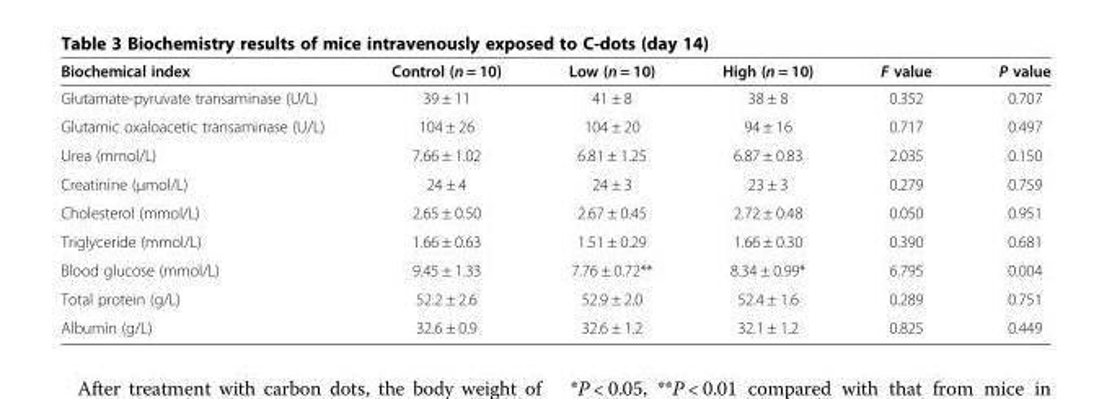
<table><thead><tr><td>Biochemical index</td><td>Control (n = 10)</td><td>Low (n = 10)</td><td>High (n = 10)</td><td>F value</td><td>P value</td></tr></thead><tbody><tr><td>Glutamate-pyruvate transaminase (U/L)</td><td>39 ± 11</td><td>41 ± 8</td><td>38 ± 8</td><td>0.352</td><td>0.707</td></tr><tr><td>Glutamic oxaloacetic transaminase (U/L)</td><td>104 ± 26</td><td>104 ± 20</td><td>94 ± 16</td><td>0.717</td><td>0.497</td></tr><tr><td>Urea (mmol/L)</td><td>7.66 ± 1.02</td><td>6.81 ± 1.25</td><td>6.87 ± 0.83</td><td>2.035</td><td>0.150</td></tr><tr><td>Creatinine (μmol/L)</td><td>24 ± 4</td><td>24 ± 3</td><td>23 ± 3</td><td>0.279</td><td>0.759</td></tr><tr><td>Cholesterol (mmol/L)</td><td>2.65 ± 0.50</td><td>2.67 ± 0.45</td><td>2.72 ± 0.48</td><td>0.050</td><td>0.951</td></tr><tr><td>Triglyceride (mmol/L)</td><td>1.66 ± 0.63</td><td>1.51 ± 0.29</td><td>1.66 ± 0.30</td><td>0.390</td><td>0.681</td></tr><tr><td>Blood glucose (mmol/L)</td><td>9.45 ± 1.33</td><td>7.76 ± 0.72**</td><td>8.34 ± 0.99*</td><td>6.795</td><td>0.004</td></tr><tr><td>Total protein (g/L)</td><td>52.2 ± 2.6</td><td>52.9 ± 2.0</td><td>52.4 ± 1.6</td><td>0.289</td><td>0.751</td></tr><tr><td>Albumin (g/L)</td><td>32.6 ± 0.9</td><td>32.6 ± 1.2</td><td>32.1 ± 1.2</td><td>0.825</td><td>0.449</td></tr></tbody></table>